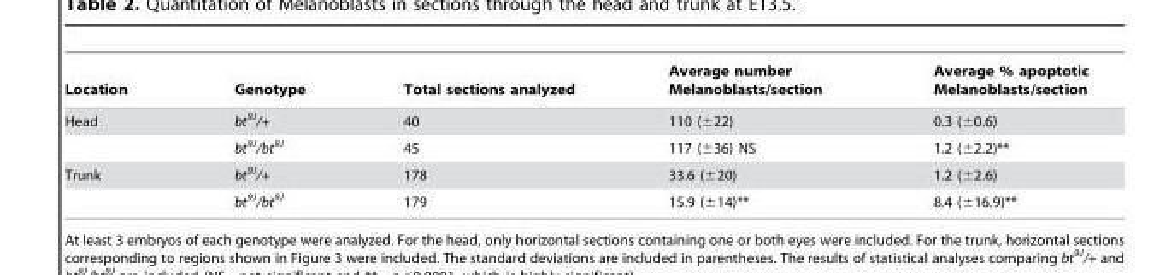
<table><thead><tr><td>Location</td><td>Genotype</td><td>Total sections analyzed</td><td>Average number Melanoblasts/section</td><td>Average % apoptotic Melanoblasts/section</td></tr></thead><tbody><tr><td rowspan="2">Head</td><td>bt<sup>9J</sup>/+</td><td>40</td><td>110 (±22)</td><td>0.3 (±0.6)</td></tr><tr><td>bt<sup>9J</sup>/bt<sup>9J</sup></td><td>45</td><td>117 (±36) NS</td><td>1.2 (±2.2)**</td></tr><tr><td rowspan="2">Trunk</td><td>bt<sup>9J</sup>/+</td><td>178</td><td>33.6 (±20)</td><td>1.2 (±2.6)</td></tr><tr><td>bt<sup>9J</sup>/bt<sup>9J</sup></td><td>179</td><td>15.9 (±14)**</td><td>8.4 (±16.9)**</td></tr></tbody></table>